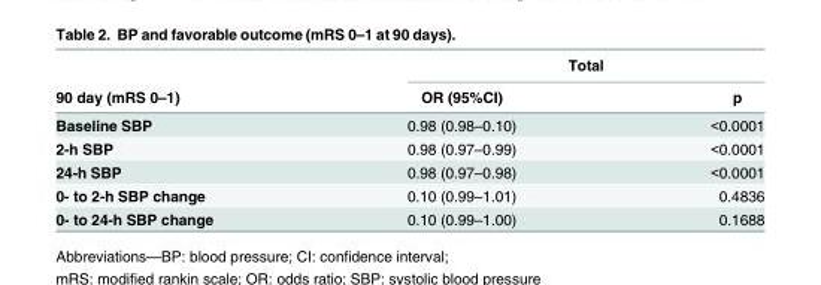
<table><thead><tr><td rowspan="2">90 day (mRS 0–1)</td><td colspan="2">Total</td></tr><tr><td>OR (95%CI)</td><td>p</td></tr></thead><tbody><tr><td>Baseline SBP</td><td>0.98 (0.98–0.10)</td><td>&lt;0.0001</td></tr><tr><td>2-h SBP</td><td>0.98 (0.97–0.99)</td><td>&lt;0.0001</td></tr><tr><td>24-h SBP</td><td>0.98 (0.97–0.98)</td><td>&lt;0.0001</td></tr><tr><td>0- to 2-h SBP change</td><td>0.10 (0.99–1.01)</td><td>0.4836</td></tr><tr><td>0- to 24-h SBP change</td><td>0.10 (0.99–1.00)</td><td>0.1688</td></tr></tbody></table>